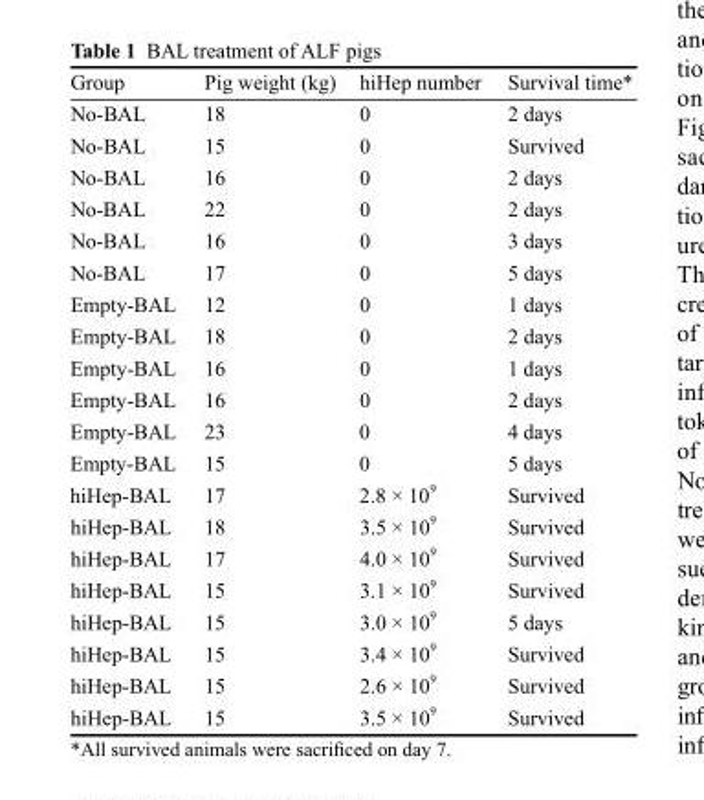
<table><thead><tr><td>Group</td><td>Pig weight (kg)</td><td>hiHep number</td><td>Survival time*</td></tr></thead><tbody><tr><td>No-BAL</td><td>18</td><td>0</td><td>2 days</td></tr><tr><td>No-BAL</td><td>15</td><td>0</td><td>Survived</td></tr><tr><td>No-BAL</td><td>16</td><td>0</td><td>2 days</td></tr><tr><td>No-BAL</td><td>22</td><td>0</td><td>2 days</td></tr><tr><td>No-BAL</td><td>16</td><td>0</td><td>3 days</td></tr><tr><td>No-BAL</td><td>17</td><td>0</td><td>5 days</td></tr><tr><td>Empty-BAL</td><td>12</td><td>0</td><td>1 days</td></tr><tr><td>Empty-BAL</td><td>18</td><td>0</td><td>2 days</td></tr><tr><td>Empty-BAL</td><td>16</td><td>0</td><td>1 days</td></tr><tr><td>Empty-BAL</td><td>16</td><td>0</td><td>2 days</td></tr><tr><td>Empty-BAL</td><td>23</td><td>0</td><td>4 days</td></tr><tr><td>Empty-BAL</td><td>15</td><td>0</td><td>5 days</td></tr><tr><td>hiHep-BAL</td><td>17</td><td>2.8 × 10 <sup>9</sup></td><td>Survived</td></tr><tr><td>hiHep-BAL</td><td>18</td><td>3.5 × 10 <sup>9</sup></td><td>Survived</td></tr><tr><td>hiHep-BAL</td><td>17</td><td>4.0 × 10 <sup>9</sup></td><td>Survived</td></tr><tr><td>hiHep-BAL</td><td>15</td><td>3.1 × 10 <sup>9</sup></td><td>Survived</td></tr><tr><td>hiHep-BAL</td><td>15</td><td>3.0 × 10 <sup>9</sup></td><td>5 days</td></tr><tr><td>hiHep-BAL</td><td>15</td><td>3.4 × 10 <sup>9</sup></td><td>Survived</td></tr><tr><td>hiHep-BAL</td><td>15</td><td>2.6 × 10 <sup>9</sup></td><td>Survived</td></tr><tr><td>hiHep-BAL</td><td>15</td><td>3.5 × 10 <sup>9</sup></td><td>Survived</td></tr></tbody></table>